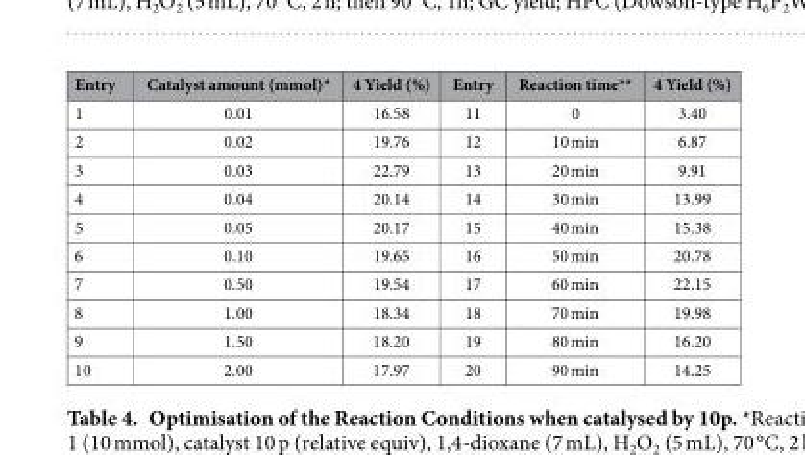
<table><thead><tr><td>Entry</td><td>Catalyst amount (mmol)*</td><td>4 Yield (%)</td><td>Entry</td><td>Reaction time**</td><td>4 Yield (%)</td></tr></thead><tbody><tr><td>1</td><td>0.01</td><td>16.58</td><td>11</td><td>0</td><td>3.40</td></tr><tr><td>2</td><td>0.02</td><td>19.76</td><td>12</td><td>10 min</td><td>6.87</td></tr><tr><td>3</td><td>0.03</td><td>22.79</td><td>13</td><td>20 min</td><td>9.91</td></tr><tr><td>4</td><td>0.04</td><td>20.14</td><td>14</td><td>30 min</td><td>13.99</td></tr><tr><td>5</td><td>0.05</td><td>20.17</td><td>15</td><td>40 min</td><td>15.38</td></tr><tr><td>6</td><td>0.10</td><td>19.65</td><td>16</td><td>50 min</td><td>20.78</td></tr><tr><td>7</td><td>0.50</td><td>19.54</td><td>17</td><td>60 min</td><td>22.15</td></tr><tr><td>8</td><td>1.00</td><td>18.34</td><td>18</td><td>70 min</td><td>19.98</td></tr><tr><td>9</td><td>1.50</td><td>18.20</td><td>19</td><td>80 min</td><td>16.20</td></tr><tr><td>10</td><td>2.00</td><td>17.97</td><td>20</td><td>90 min</td><td>14.25</td></tr></tbody></table>